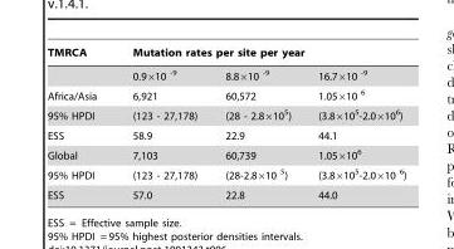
<table><thead><tr><td rowspan="2">TMRCA</td><td colspan="3">Mutation rates per site per year</td></tr><tr><td>0.9×10 <sup>-9</sup></td><td>8.8×10 <sup>-9</sup></td><td>16.7×10 <sup>-9</sup></td></tr></thead><tbody><tr><td>Africa/Asia</td><td>6,921</td><td>60,572</td><td>1.05×10 <sup>6</sup></td></tr><tr><td>95% HPDI</td><td>(123 - 27,178)</td><td>(28 - 2.8×10<sup>5</sup>)</td><td>(3.8×10<sup>5</sup>-2.0×10<sup>6</sup>)</td></tr><tr><td>ESS</td><td>58.9</td><td>22.9</td><td>44.1</td></tr><tr><td>Global</td><td>7,103</td><td>60,739</td><td>1.05×10<sup>6</sup></td></tr><tr><td>95% HPDI</td><td>(123 - 27,178)</td><td>(28-2.8×10 <sup>5</sup>)</td><td>(3.8×10<sup>5</sup>-2.0×10 <sup>6</sup>)</td></tr><tr><td>ESS</td><td>57.0</td><td>22.8</td><td>44.0</td></tr></tbody></table>